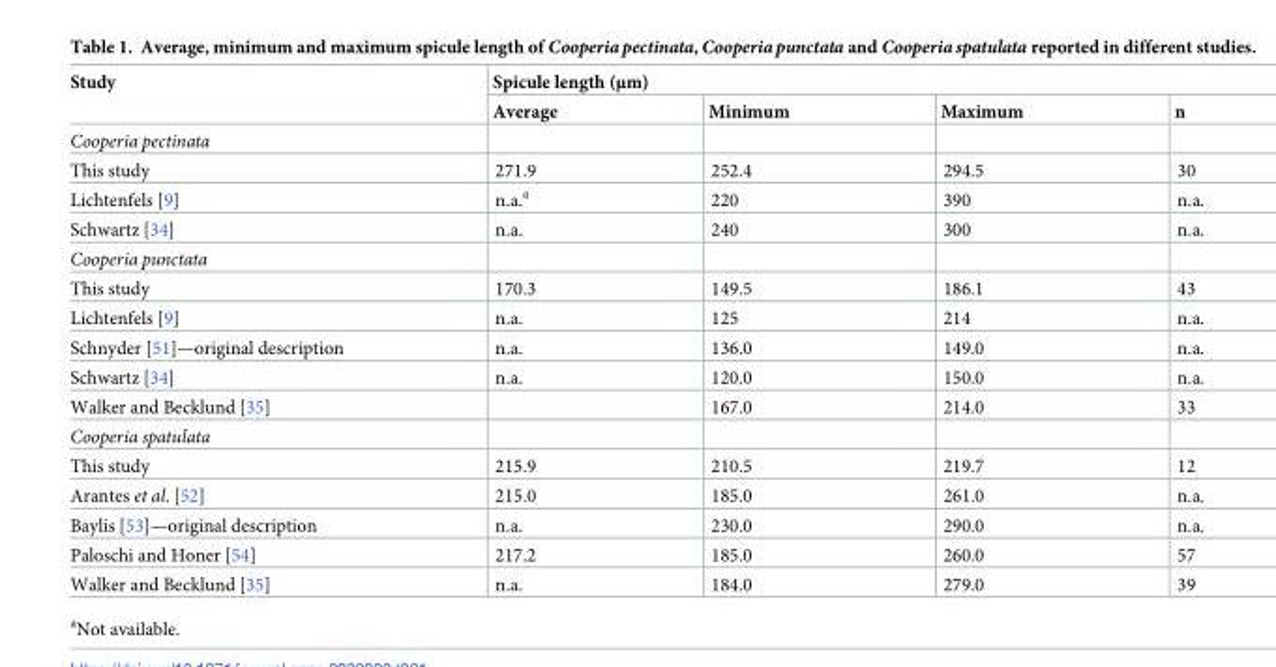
<table><thead><tr><td rowspan="2">Study</td><td colspan="4">Spicule length (μm)</td></tr><tr><td>Average</td><td>Minimum</td><td>Maximum</td><td>n</td></tr></thead><tbody><tr><td colspan="5">Cooperia pectinata</td></tr><tr><td>This study</td><td>271.9</td><td>252.4</td><td>294.5</td><td>30</td></tr><tr><td>Lichtenfels [9]</td><td>n.a.<sup>a</sup></td><td>220</td><td>390</td><td>n.a.</td></tr><tr><td>Schwartz [34]</td><td>n.a.</td><td>240</td><td>300</td><td>n.a.</td></tr><tr><td colspan="5">Cooperia punctata</td></tr><tr><td>This study</td><td>170.3</td><td>149.5</td><td>186.1</td><td>43</td></tr><tr><td>Lichtenfels [9]</td><td>n.a.</td><td>125</td><td>214</td><td>n.a.</td></tr><tr><td>Schnyder [51]—original description</td><td>n.a.</td><td>136.0</td><td>149.0</td><td>n.a.</td></tr><tr><td>Schwartz [34]</td><td>n.a.</td><td>120.0</td><td>150.0</td><td>n.a.</td></tr><tr><td>Walker and Becklund [35]</td><td></td><td>167.0</td><td>214.0</td><td>33</td></tr><tr><td colspan="5">Cooperia spatulata</td></tr><tr><td>This study</td><td>215.9</td><td>210.5</td><td>219.7</td><td>12</td></tr><tr><td>Arantes et al. [52]</td><td>215.0</td><td>185.0</td><td>261.0</td><td>n.a.</td></tr><tr><td>Baylis [53]—original description</td><td>n.a.</td><td>230.0</td><td>290.0</td><td>n.a.</td></tr><tr><td>Paloschi and Honer [54]</td><td>217.2</td><td>185.0</td><td>260.0</td><td>57</td></tr><tr><td>Walker and Becklund [35]</td><td>n.a.</td><td>184.0</td><td>279.0</td><td>39</td></tr></tbody></table>